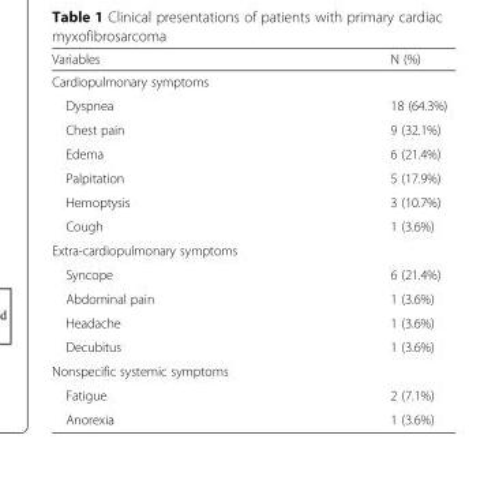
<table><thead><tr><td>Variables</td><td>N (%)</td></tr></thead><tbody><tr><td colspan="2">Cardiopulmonary symptoms</td></tr><tr><td>Dyspnea</td><td>18 (64.3%)</td></tr><tr><td>Chest pain</td><td>9 (32.1%)</td></tr><tr><td>Edema</td><td>6 (21.4%)</td></tr><tr><td>Palpitation</td><td>5 (17.9%)</td></tr><tr><td>Hemoptysis</td><td>3 (10.7%)</td></tr><tr><td>Cough</td><td>1 (3.6%)</td></tr><tr><td colspan="2">Extra-cardiopulmonary symptoms</td></tr><tr><td>Syncope</td><td>6 (21.4%)</td></tr><tr><td>Abdominal pain</td><td>1 (3.6%)</td></tr><tr><td>Headache</td><td>1 (3.6%)</td></tr><tr><td>Decubitus</td><td>1 (3.6%)</td></tr><tr><td colspan="2">Nonspecific systemic symptoms</td></tr><tr><td>Fatigue</td><td>2 (7.1%)</td></tr><tr><td>Anorexia</td><td>1 (3.6%)</td></tr></tbody></table>